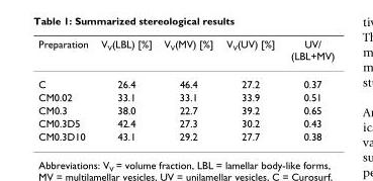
<table><thead><tr><td>Preparation</td><td>V<sub>V</sub>(LBL) [%]</td><td>V<sub>V</sub>(MV) [%]</td><td>V<sub>V</sub>(UV) [%]</td><td>UV/ (LBL+MV)</td></tr></thead><tbody><tr><td>C</td><td>26.4</td><td>46.4</td><td>27.2</td><td>0.37</td></tr><tr><td>CM0.02</td><td>33.1</td><td>33.1</td><td>33.9</td><td>0.51</td></tr><tr><td>CM0.3</td><td>38.0</td><td>22.7</td><td>39.2</td><td>0.65</td></tr><tr><td>CM0.3D5</td><td>42.4</td><td>27.3</td><td>30.2</td><td>0.43</td></tr><tr><td>CM0.3D10</td><td>43.1</td><td>29.2</td><td>27.7</td><td>0.38</td></tr></tbody></table>